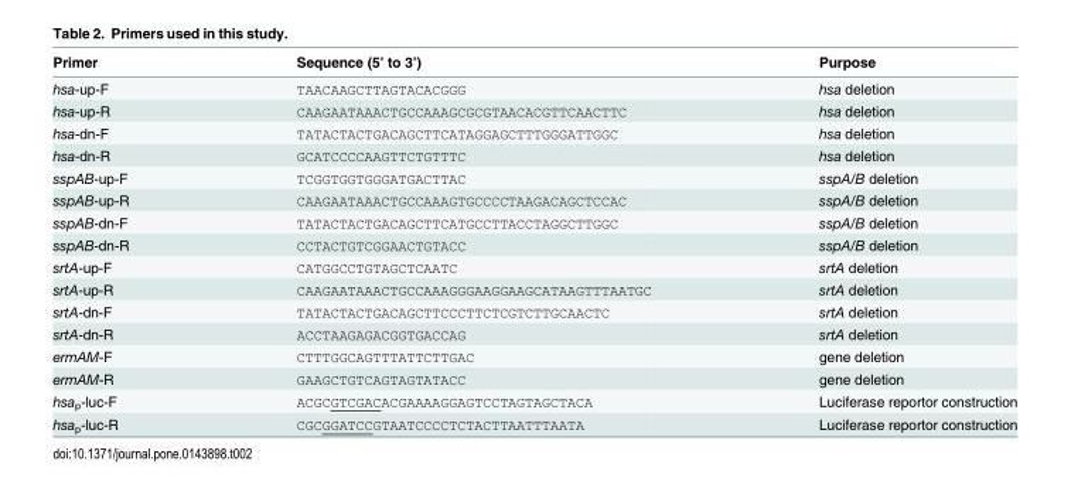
<table><thead><tr><td>Primer</td><td>Sequence (5’ to 3’)</td><td>Purpose</td></tr></thead><tbody><tr><td>hsa-up-F</td><td>TAACAAGCTTAGTACACGGG</td><td>hsa deletion</td></tr><tr><td>hsa-up-R</td><td>CAAGAATAAACTGCCAAAGCGCGTAACACGTTCAACTTC</td><td>hsa deletion</td></tr><tr><td>hsa-dn-F</td><td>TATACTACTGACAGCTTCATAGGAGCTTTGGGATTGGC</td><td>hsa deletion</td></tr><tr><td>hsa-dn-R</td><td>GCATCCCCAAGTTCTGTTTC</td><td>hsa deletion</td></tr><tr><td>sspAB-up-F</td><td>TCGGTGGTGGGATGACTTAC</td><td>sspA/B deletion</td></tr><tr><td>sspAB-up-R</td><td>CAAGAATAAACTGCCAAAGTGCCCCTAAGACAGCTCCAC</td><td>sspA/B deletion</td></tr><tr><td>sspAB-dn-F</td><td>TATACTACTGACAGCTTCATGCCTTACCTAGGCTTGGC</td><td>sspA/B deletion</td></tr><tr><td>sspAB-dn-R</td><td>CCTACTGTCGGAACTGTACC</td><td>sspA/B deletion</td></tr><tr><td>srtA-up-F</td><td>CATGGCCTGTAGCTCAATC</td><td>srtA deletion</td></tr><tr><td>srtA-up-R</td><td>CAAGAATAAACTGCCAAAGGGAAGGAAGCATAAGTTTAATGC</td><td>srtA deletion</td></tr><tr><td>srtA-dn-F</td><td>TATACTACTGACAGCTTCCCTTCTCGTCTTGCAACTC</td><td>srtA deletion</td></tr><tr><td>srtA-dn-R</td><td>ACCTAAGAGACGGTGACCAG</td><td>srtA deletion</td></tr><tr><td>ermAM-F</td><td>CTTTGGCAGTTTATTCTTGAC</td><td>gene deletion</td></tr><tr><td>ermAM-R</td><td>GAAGCTGTCAGTAGTATACC</td><td>gene deletion</td></tr><tr><td>hsa<sub>p</sub>-luc-F</td><td>ACGCGTCGACACGAAAAGGAGTCCTAGTAGCTACA</td><td>Luciferase reportor construction</td></tr><tr><td>hsa<sub>p</sub>-luc-R</td><td>CGCGGATCCGTAATCCCCTCTACTTAATTTAATA</td><td>Luciferase reportor construction</td></tr></tbody></table>